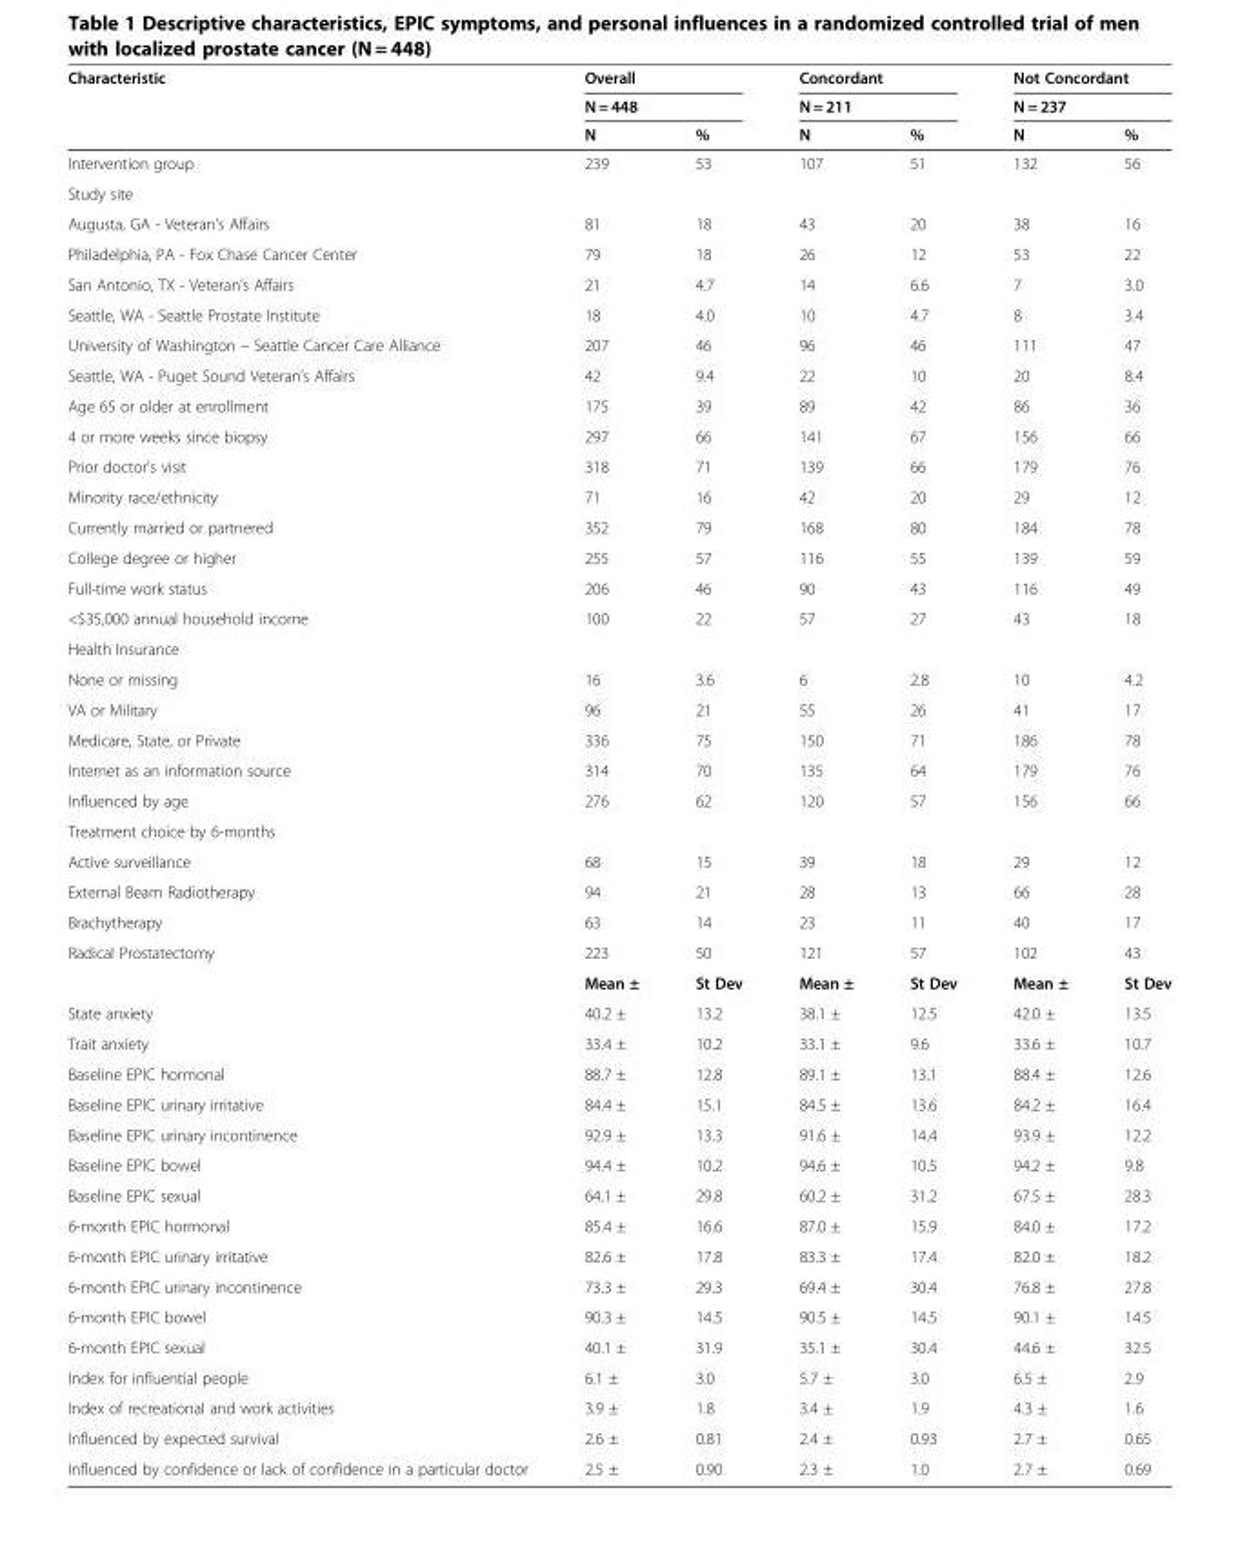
<table><thead><tr><td rowspan="3">Characteristic</td><td rowspan="2" colspan="2">Overall N = 448</td><td rowspan="2" colspan="2">Concordant N = 211</td><td rowspan="2" colspan="2">Not Concordant N = 237</td></tr><tr></tr><tr><td>N</td><td>%</td><td>N</td><td>%</td><td>N</td><td>%</td></tr></thead><tbody><tr><td>Intervention group</td><td>239</td><td>53</td><td>107</td><td>51</td><td>132</td><td>56</td></tr><tr><td colspan="7">Study site</td></tr><tr><td>Augusta, GA - Veteran’s Affairs</td><td>81</td><td>18</td><td>43</td><td>20</td><td>38</td><td>16</td></tr><tr><td>Philadelphia, PA - Fox Chase Cancer Center</td><td>79</td><td>18</td><td>26</td><td>12</td><td>53</td><td>22</td></tr><tr><td>San Antonio, TX - Veteran’s Affairs</td><td>21</td><td>4.7</td><td>14</td><td>6.6</td><td>7</td><td>3.0</td></tr><tr><td>Seattle, WA - Seattle Prostate Institute</td><td>18</td><td>4.0</td><td>10</td><td>4.7</td><td>8</td><td>3.4</td></tr><tr><td>University of Washington – Seattle Cancer Care Alliance</td><td>207</td><td>46</td><td>96</td><td>46</td><td>111</td><td>47</td></tr><tr><td>Seattle, WA - Puget Sound Veteran’s Affairs</td><td>42</td><td>9.4</td><td>22</td><td>10</td><td>20</td><td>8.4</td></tr><tr><td>Age 65 or older at enrollment</td><td>175</td><td>39</td><td>89</td><td>42</td><td>86</td><td>36</td></tr><tr><td>4 or more weeks since biopsy</td><td>297</td><td>66</td><td>141</td><td>67</td><td>156</td><td>66</td></tr><tr><td>Prior doctor&#x27;s visit</td><td>318</td><td>71</td><td>139</td><td>66</td><td>179</td><td>76</td></tr><tr><td>Minority race/ethnicity</td><td>71</td><td>16</td><td>42</td><td>20</td><td>29</td><td>12</td></tr><tr><td>Currently married or partnered</td><td>352</td><td>79</td><td>168</td><td>80</td><td>184</td><td>78</td></tr><tr><td>College degree or higher</td><td>255</td><td>57</td><td>116</td><td>55</td><td>139</td><td>59</td></tr><tr><td>Full-time work status</td><td>206</td><td>46</td><td>90</td><td>43</td><td>116</td><td>49</td></tr><tr><td>&lt;$35,000 annual household income</td><td>100</td><td>22</td><td>57</td><td>27</td><td>43</td><td>18</td></tr><tr><td colspan="7">Health Insurance</td></tr><tr><td>None or missing</td><td>16</td><td>3.6</td><td>6</td><td>2.8</td><td>10</td><td>4.2</td></tr><tr><td>VA or Military</td><td>96</td><td>21</td><td>55</td><td>26</td><td>41</td><td>17</td></tr><tr><td>Medicare, State, or Private</td><td>336</td><td>75</td><td>150</td><td>71</td><td>186</td><td>78</td></tr><tr><td>Internet as an information source</td><td>314</td><td>70</td><td>135</td><td>64</td><td>179</td><td>76</td></tr><tr><td>Influenced by age</td><td>276</td><td>62</td><td>120</td><td>57</td><td>156</td><td>66</td></tr><tr><td colspan="7">Treatment choice by 6-months</td></tr><tr><td>Active surveillance</td><td>68</td><td>15</td><td>39</td><td>18</td><td>29</td><td>12</td></tr><tr><td>External Beam Radiotherapy</td><td>94</td><td>21</td><td>28</td><td>13</td><td>66</td><td>28</td></tr><tr><td>Brachytherapy</td><td>63</td><td>14</td><td>23</td><td>11</td><td>40</td><td>17</td></tr><tr><td rowspan="2">Radical Prostatectomy</td><td>223</td><td>50</td><td>121</td><td>57</td><td>102</td><td>43</td></tr><tr><td>Mean ±</td><td>St Dev</td><td>Mean ±</td><td>St Dev</td><td>Mean ±</td><td>St Dev</td></tr><tr><td>State anxiety</td><td>40.2 ±</td><td>13.2</td><td>38.1 ±</td><td>12.5</td><td>42.0 ±</td><td>13.5</td></tr><tr><td>Trait anxiety</td><td>33.4 ±</td><td>10.2</td><td>33.1 ±</td><td>9.6</td><td>33.6 ±</td><td>10.7</td></tr><tr><td>Baseline EPIC hormonal</td><td>88.7 ±</td><td>12.8</td><td>89.1 ±</td><td>13.1</td><td>88.4 ±</td><td>12.6</td></tr><tr><td>Baseline EPIC urinary irritative</td><td>84.4 ±</td><td>15.1</td><td>84.5 ±</td><td>13.6</td><td>84.2 ±</td><td>16.4</td></tr><tr><td>Baseline EPIC urinary incontinence</td><td>92.9 ±</td><td>13.3</td><td>91.6 ±</td><td>14.4</td><td>93.9 ±</td><td>12.2</td></tr><tr><td>Baseline EPIC bowel</td><td>94.4 ±</td><td>10.2</td><td>94.6 ±</td><td>10.5</td><td>94.2 ±</td><td>9.8</td></tr><tr><td>Baseline EPIC sexual</td><td>64.1 ±</td><td>29.8</td><td>60.2 ±</td><td>31.2</td><td>67.5 ±</td><td>28.3</td></tr><tr><td>6-month EPIC hormonal</td><td>85.4 ±</td><td>16.6</td><td>87.0 ±</td><td>15.9</td><td>84.0 ±</td><td>17.2</td></tr><tr><td>6-month EPIC urinary irritative</td><td>82.6 ±</td><td>17.8</td><td>83.3 ±</td><td>17.4</td><td>82.0 ±</td><td>18.2</td></tr><tr><td>6-month EPIC urinary incontinence</td><td>73.3 ±</td><td>29.3</td><td>69.4 ±</td><td>30.4</td><td>76.8 ±</td><td>27.8</td></tr><tr><td>6-month EPIC bowel</td><td>90.3 ±</td><td>14.5</td><td>90.5 ±</td><td>14.5</td><td>90.1 ±</td><td>14.5</td></tr><tr><td>6-month EPIC sexual</td><td>40.1 ±</td><td>31.9</td><td>35.1 ±</td><td>30.4</td><td>44.6 ±</td><td>32.5</td></tr><tr><td>Index for influential people</td><td>6.1 ±</td><td>3.0</td><td>5.7 ±</td><td>3.0</td><td>6.5 ±</td><td>2.9</td></tr><tr><td>Index of recreational and work activities</td><td>3.9 ±</td><td>1.8</td><td>3.4 ±</td><td>1.9</td><td>4.3 ±</td><td>1.6</td></tr><tr><td>Influenced by expected survival</td><td>2.6 ±</td><td>0.81</td><td>2.4 ±</td><td>0.93</td><td>2.7 ±</td><td>0.65</td></tr><tr><td>Influenced by confidence or lack of confidence in a particular doctor</td><td>2.5 ±</td><td>0.90</td><td>2.3 ±</td><td>1.0</td><td>2.7 ±</td><td>0.69</td></tr></tbody></table>